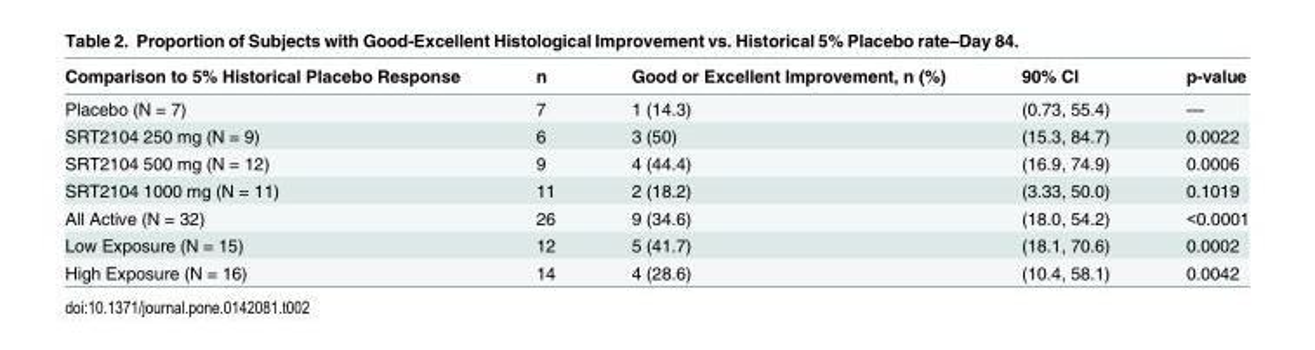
<table><thead><tr><td>Comparison to 5% Historical Placebo Response</td><td>n</td><td>Good or Excellent Improvement, n (%)</td><td>90% CI</td><td>p-value</td></tr></thead><tbody><tr><td>Placebo (N = 7)</td><td>7</td><td>1 (14.3)</td><td>(0.73, 55.4)</td><td>—</td></tr><tr><td>SRT2104 250 mg (N = 9)</td><td>6</td><td>3 (50)</td><td>(15.3, 84.7)</td><td>0.0022</td></tr><tr><td>SRT2104 500 mg (N = 12)</td><td>9</td><td>4 (44.4)</td><td>(16.9, 74.9)</td><td>0.0006</td></tr><tr><td>SRT2104 1000 mg (N = 11)</td><td>11</td><td>2 (18.2)</td><td>(3.33, 50.0)</td><td>0.1019</td></tr><tr><td>All Active (N = 32)</td><td>26</td><td>9 (34.6)</td><td>(18.0, 54.2)</td><td>&lt;0.0001</td></tr><tr><td>Low Exposure (N = 15)</td><td>12</td><td>5 (41.7)</td><td>(18.1, 70.6)</td><td>0.0002</td></tr><tr><td>High Exposure (N = 16)</td><td>14</td><td>4 (28.6)</td><td>(10.4, 58.1)</td><td>0.0042</td></tr></tbody></table>